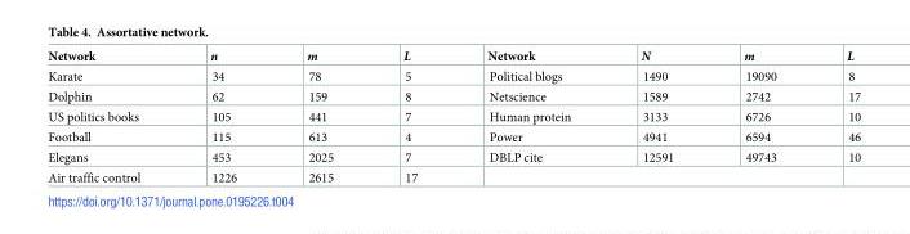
<table><thead><tr><td>Network</td><td>n</td><td>m</td><td>L</td><td>Network</td><td>N</td><td>m</td><td>L</td></tr></thead><tbody><tr><td>Karate</td><td>34</td><td>78</td><td>5</td><td>Political blogs</td><td>1490</td><td>19090</td><td>8</td></tr><tr><td>Dolphin</td><td>62</td><td>159</td><td>8</td><td>Netscience</td><td>1589</td><td>2742</td><td>17</td></tr><tr><td>US politics books</td><td>105</td><td>441</td><td>7</td><td>Human protein</td><td>3133</td><td>6726</td><td>10</td></tr><tr><td>Football</td><td>115</td><td>613</td><td>4</td><td>Power</td><td>4941</td><td>6594</td><td>46</td></tr><tr><td>Elegans</td><td>453</td><td>2025</td><td>7</td><td>DBLP cite</td><td>12591</td><td>49743</td><td>10</td></tr><tr><td>Air traffic control</td><td>1226</td><td>2615</td><td>17</td><td colspan="3"></td><td></td></tr></tbody></table>